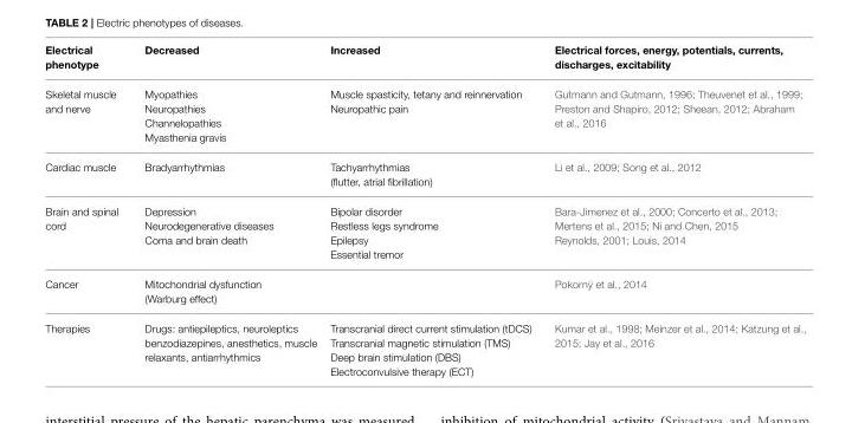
<table><thead><tr><td>Electrical phenotype</td><td>Decreased</td><td>Increased</td><td>Electrical forces, energy, potentials, currents, discharges, excitability</td></tr></thead><tbody><tr><td>Skeletal muscle and nerve</td><td>Myopathies Neuropathies Channelopathies Myasthenia gravis</td><td>Muscle spasticity, tetany and reinnervation Neuropathic pain</td><td>Gutmann and Gutmann, 1996; Theuvenet et al., 1999; Preston and Shapiro, 2012; Sheean, 2012; Abraham et al., 2016</td></tr><tr><td>Cardiac muscle</td><td>Bradyarrhythmias</td><td>Tachyarrhythmias (flutter, atrial fibrillation)</td><td>Li et al., 2009; Song et al., 2012</td></tr><tr><td>Brain and spinal cord</td><td>Depression Neurodegenerative diseases Coma and brain death</td><td>Bipolar disorder Restless legs syndrome Epilepsy Essential tremor</td><td>Bara-Jimenez et al., 2000; Concerto et al., 2013; Mertens et al., 2015; Ni and Chen, 2015 Reynolds, 2001; Louis, 2014</td></tr><tr><td>Cancer</td><td>Mitochondrial dysfunction (Warburg effect)</td><td></td><td>Pokorný et al., 2014</td></tr><tr><td>Therapies</td><td>Drugs: antiepileptics, neuroleptics benzodiazepines, anesthetics, muscle relaxants, antiarrhythmics</td><td>Transcranial direct current stimulation (tDCS) Transcranial magnetic stimulation (TMS) Deep brain stimulation (DBS) Electroconvulsive therapy (ECT)</td><td>Kumar et al., 1998; Meinzer et al., 2014; Katzung et al., 2015; Jay et al., 2016</td></tr></tbody></table>